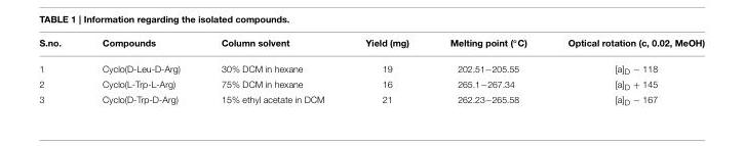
<table><thead><tr><td>S.no.</td><td>Compounds</td><td>Column solvent</td><td>Yield (mg)</td><td>Melting point (◦C)</td><td>Optical rotation (c, 0.02, MeOH)</td></tr></thead><tbody><tr><td>1</td><td>Cyclo(D-Leu-D-Arg)</td><td>30% DCM in hexane</td><td>19</td><td>202.51−205.55</td><td>[a]<sub>D</sub> − 118</td></tr><tr><td>2</td><td>Cyclo(L-Trp-L-Arg)</td><td>75% DCM in hexane</td><td>16</td><td>265.1−267.34</td><td>[a]<sub>D</sub> + 145</td></tr><tr><td>3</td><td>Cyclo(D-Trp-D-Arg)</td><td>15% ethyl acetate in DCM</td><td>21</td><td>262.23−265.58</td><td>[a]<sub>D</sub> − 167</td></tr></tbody></table>